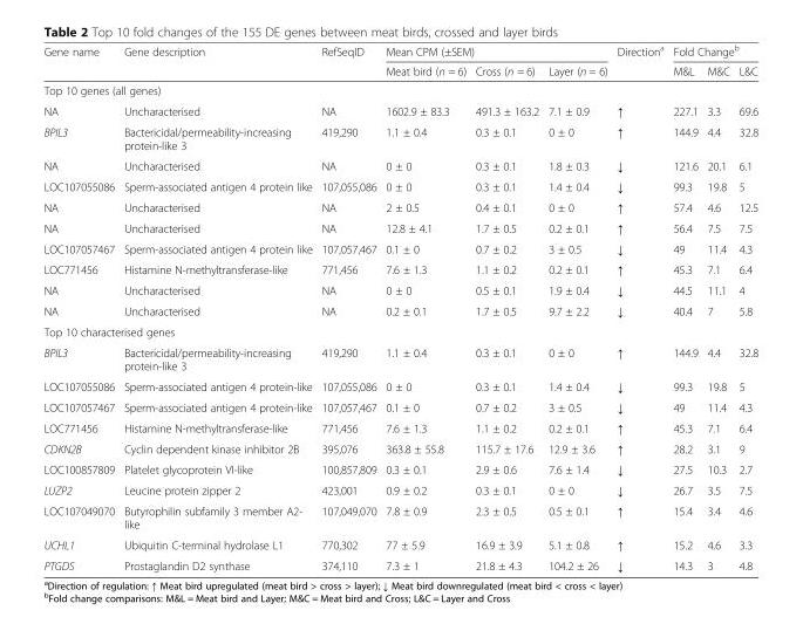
<table><thead><tr><td rowspan="2">Gene name</td><td rowspan="2">Gene description</td><td rowspan="2">RefSeqID</td><td colspan="3">Mean CPM (±SEM)</td><td rowspan="2">Direction<sup>a</sup></td><td colspan="3">Fold Change<sup>b</sup></td></tr><tr><td>Meat bird (n = 6)</td><td>Cross (n = 6)</td><td>Layer (n = 6)</td><td>M&amp;L</td><td>M&amp;C</td><td>L&amp;C</td></tr></thead><tbody><tr><td colspan="10">Top 10 genes (all genes)</td></tr><tr><td>NA</td><td>Uncharacterised</td><td>NA</td><td>1602.9 ± 83.3</td><td>491.3 ± 163.2</td><td>7.1 ± 0.9</td><td>↑</td><td>227.1</td><td>3.3</td><td>69.6</td></tr><tr><td>BPIL3</td><td>Bactericidal/permeability-increasing protein-like 3</td><td>419,290</td><td>1.1 ± 0.4</td><td>0.3 ± 0.1</td><td>0 ± 0</td><td>↑</td><td>144.9</td><td>4.4</td><td>32.8</td></tr><tr><td>NA</td><td>Uncharacterised</td><td>NA</td><td>0 ± 0</td><td>0.3 ± 0.1</td><td>1.8 ± 0.3</td><td>↓</td><td>121.6</td><td>20.1</td><td>6.1</td></tr><tr><td>LOC107055086</td><td>Sperm-associated antigen 4 protein like</td><td>107,055,086</td><td>0 ± 0</td><td>0.3 ± 0.1</td><td>1.4 ± 0.4</td><td>↓</td><td>99.3</td><td>19.8</td><td>5</td></tr><tr><td>NA</td><td>Uncharacterised</td><td>NA</td><td>2 ± 0.5</td><td>0.4 ± 0.1</td><td>0 ± 0</td><td>↑</td><td>57.4</td><td>4.6</td><td>12.5</td></tr><tr><td>NA</td><td>Uncharacterised</td><td>NA</td><td>12.8 ± 4.1</td><td>1.7 ± 0.5</td><td>0.2 ± 0.1</td><td>↑</td><td>56.4</td><td>7.5</td><td>7.5</td></tr><tr><td>LOC107057467</td><td>Sperm-associated antigen 4 protein like</td><td>107,057,467</td><td>0.1 ± 0</td><td>0.7 ± 0.2</td><td>3 ± 0.5</td><td>↓</td><td>49</td><td>11.4</td><td>4.3</td></tr><tr><td>LOC771456</td><td>Histamine N-methyltransferase-like</td><td>771,456</td><td>7.6 ± 1.3</td><td>1.1 ± 0.2</td><td>0.2 ± 0.1</td><td>↑</td><td>45.3</td><td>7.1</td><td>6.4</td></tr><tr><td>NA</td><td>Uncharacterised</td><td>NA</td><td>0 ± 0</td><td>0.5 ± 0.1</td><td>1.9 ± 0.4</td><td>↓</td><td>44.5</td><td>11.1</td><td>4</td></tr><tr><td>NA</td><td>Uncharacterised</td><td>NA</td><td>0.2 ± 0.1</td><td>1.7 ± 0.5</td><td>9.7 ± 2.2</td><td>↓</td><td>40.4</td><td>7</td><td>5.8</td></tr><tr><td colspan="10">Top 10 characterised genes</td></tr><tr><td>BPIL3</td><td>Bactericidal/permeability-increasing protein-like 3</td><td>419,290</td><td>1.1 ± 0.4</td><td>0.3 ± 0.1</td><td>0 ± 0</td><td>↑</td><td>144.9</td><td>4.4</td><td>32.8</td></tr><tr><td>LOC107055086</td><td>Sperm-associated antigen 4 protein-like</td><td>107,055,086</td><td>0 ± 0</td><td>0.3 ± 0.1</td><td>1.4 ± 0.4</td><td>↓</td><td>99.3</td><td>19.8</td><td>5</td></tr><tr><td>LOC107057467</td><td>Sperm-associated antigen 4 protein-like</td><td>107,057,467</td><td>0.1 ± 0</td><td>0.7 ± 0.2</td><td>3 ± 0.5</td><td>↓</td><td>49</td><td>11.4</td><td>4.3</td></tr><tr><td>LOC771456</td><td>Histamine N-methyltransferase-like</td><td>771,456</td><td>7.6 ± 1.3</td><td>1.1 ± 0.2</td><td>0.2 ± 0.1</td><td>↑</td><td>45.3</td><td>7.1</td><td>6.4</td></tr><tr><td>CDKN2B</td><td>Cyclin dependent kinase inhibitor 2B</td><td>395,076</td><td>363.8 ± 55.8</td><td>115.7 ± 17.6</td><td>12.9 ± 3.6</td><td>↑</td><td>28.2</td><td>3.1</td><td>9</td></tr><tr><td>LOC100857809</td><td>Platelet glycoprotein VI-like</td><td>100,857,809</td><td>0.3 ± 0.1</td><td>2.9 ± 0.6</td><td>7.6 ± 1.4</td><td>↓</td><td>27.5</td><td>10.3</td><td>2.7</td></tr><tr><td>LUZP2</td><td>Leucine protein zipper 2</td><td>423,001</td><td>0.9 ± 0.2</td><td>0.3 ± 0.1</td><td>0 ± 0</td><td>↓</td><td>26.7</td><td>3.5</td><td>7.5</td></tr><tr><td>LOC107049070</td><td>Butyrophilin subfamily 3 member A2- like</td><td>107,049,070</td><td>7.8 ± 0.9</td><td>2.3 ± 0.5</td><td>0.5 ± 0.1</td><td>↑</td><td>15.4</td><td>3.4</td><td>4.6</td></tr><tr><td>UCHL1</td><td>Ubiquitin C-terminal hydrolase L1</td><td>770,302</td><td>77 ± 5.9</td><td>16.9 ± 3.9</td><td>5.1 ± 0.8</td><td>↑</td><td>15.2</td><td>4.6</td><td>3.3</td></tr><tr><td>PTGDS</td><td>Prostaglandin D2 synthase</td><td>374,110</td><td>7.3 ± 1</td><td>21.8 ± 4.3</td><td>104.2 ± 26</td><td>↓</td><td>14.3</td><td>3</td><td>4.8</td></tr></tbody></table>